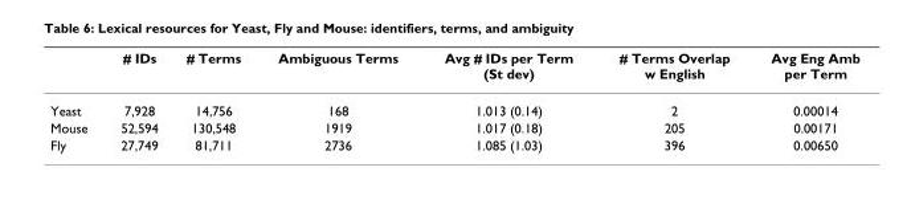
<table><thead><tr><td></td><td># IDs</td><td># Terms</td><td>Ambiguous Terms</td><td>Avg # IDs per Term (St dev)</td><td># Terms Overlap w English</td><td>Avg Eng Amb per Term</td></tr></thead><tbody><tr><td>Yeast</td><td>7,928</td><td>14,756</td><td>168</td><td>1.013 (0.14)</td><td>2</td><td>0.00014</td></tr><tr><td>Mouse</td><td>52,594</td><td>130,548</td><td>1919</td><td>1.017 (0.18)</td><td>205</td><td>0.00171</td></tr><tr><td>Fly</td><td>27,749</td><td>81,711</td><td>2736</td><td>1.085 (1.03)</td><td>396</td><td>0.00650</td></tr></tbody></table>